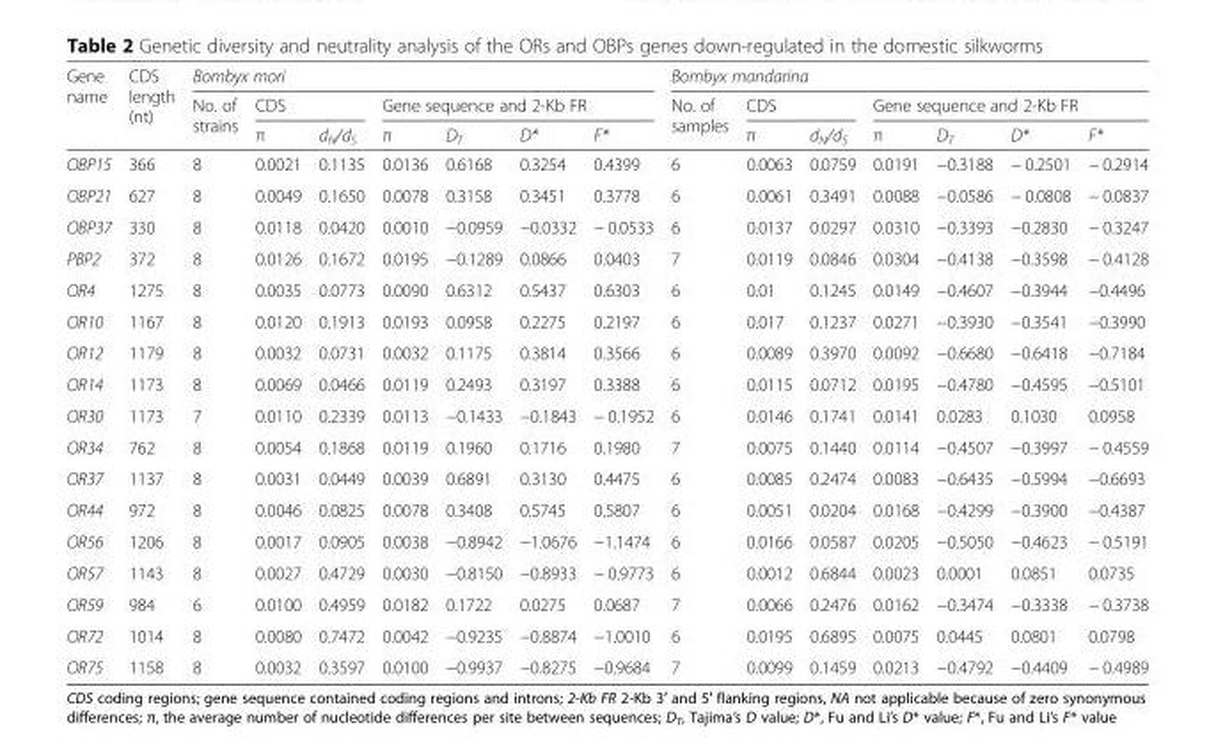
<table><thead><tr><td rowspan="3">Gene name</td><td rowspan="3">CDS length (nt)</td><td colspan="7">Bombyx mori</td><td colspan="7">Bombyx mandarina</td></tr><tr><td rowspan="2">No. of strains</td><td colspan="2">CDS</td><td colspan="4">Gene sequence and 2-Kb FR</td><td rowspan="2">No. of samples</td><td colspan="2">CDS</td><td colspan="4">Gene sequence and 2-Kb FR</td></tr><tr><td>π</td><td>d<sub>N</sub>/d<sub>S</sub></td><td>π</td><td>D<sub>T</sub></td><td>D*</td><td>F*</td><td>π</td><td>d<sub>N</sub>/d<sub>S</sub></td><td>π</td><td>D<sub>T</sub></td><td>D*</td><td>F*</td></tr></thead><tbody><tr><td>OBP15</td><td>366</td><td>8</td><td>0.0021</td><td>0.1135</td><td>0.0136</td><td>0.6168</td><td>0.3254</td><td>0.4399</td><td>6</td><td>0.0063</td><td>0.0759</td><td>0.0191</td><td>−0.3188</td><td>− 0.2501</td><td>− 0.2914</td></tr><tr><td>OBP21</td><td>627</td><td>8</td><td>0.0049</td><td>0.1650</td><td>0.0078</td><td>0.3158</td><td>0.3451</td><td>0.3778</td><td>6</td><td>0.0061</td><td>0.3491</td><td>0.0088</td><td>−0.0586</td><td>− 0.0808</td><td>− 0.0837</td></tr><tr><td>OBP37</td><td>330</td><td>8</td><td>0.0118</td><td>0.0420</td><td>0.0010</td><td>−0.0959</td><td>−0.0332</td><td>− 0.0533</td><td>6</td><td>0.0137</td><td>0.0297</td><td>0.0310</td><td>−0.3393</td><td>−0.2830</td><td>− 0.3247</td></tr><tr><td>PBP2</td><td>372</td><td>8</td><td>0.0126</td><td>0.1672</td><td>0.0195</td><td>−0.1289</td><td>0.0866</td><td>0.0403</td><td>7</td><td>0.0119</td><td>0.0846</td><td>0.0304</td><td>−0.4138</td><td>−0.3598</td><td>− 0.4128</td></tr><tr><td>OR4</td><td>1275</td><td>8</td><td>0.0035</td><td>0.0773</td><td>0.0090</td><td>0.6312</td><td>0.5437</td><td>0.6303</td><td>6</td><td>0.01</td><td>0.1245</td><td>0.0149</td><td>−0.4607</td><td>−0.3944</td><td>−0.4496</td></tr><tr><td>OR10</td><td>1167</td><td>8</td><td>0.0120</td><td>0.1913</td><td>0.0193</td><td>0.0958</td><td>0.2275</td><td>0.2197</td><td>6</td><td>0.017</td><td>0.1237</td><td>0.0271</td><td>−0.3930</td><td>−0.3541</td><td>−0.3990</td></tr><tr><td>OR12</td><td>1179</td><td>8</td><td>0.0032</td><td>0.0731</td><td>0.0032</td><td>0.1175</td><td>0.3814</td><td>0.3566</td><td>6</td><td>0.0089</td><td>0.3970</td><td>0.0092</td><td>−0.6680</td><td>−0.6418</td><td>−0.7184</td></tr><tr><td>OR14</td><td>1173</td><td>8</td><td>0.0069</td><td>0.0466</td><td>0.0119</td><td>0.2493</td><td>0.3197</td><td>0.3388</td><td>6</td><td>0.0115</td><td>0.0712</td><td>0.0195</td><td>−0.4780</td><td>−0.4595</td><td>−0.5101</td></tr><tr><td>OR30</td><td>1173</td><td>7</td><td>0.0110</td><td>0.2339</td><td>0.0113</td><td>−0.1433</td><td>−0.1843</td><td>− 0.1952</td><td>6</td><td>0.0146</td><td>0.1741</td><td>0.0141</td><td>0.0283</td><td>0.1030</td><td>0.0958</td></tr><tr><td>OR34</td><td>762</td><td>8</td><td>0.0054</td><td>0.1868</td><td>0.0119</td><td>0.1960</td><td>0.1716</td><td>0.1980</td><td>7</td><td>0.0075</td><td>0.1440</td><td>0.0114</td><td>−0.4507</td><td>−0.3997</td><td>− 0.4559</td></tr><tr><td>OR37</td><td>1137</td><td>8</td><td>0.0031</td><td>0.0449</td><td>0.0039</td><td>0.6891</td><td>0.3130</td><td>0.4475</td><td>6</td><td>0.0085</td><td>0.2474</td><td>0.0083</td><td>−0.6435</td><td>−0.5994</td><td>−0.6693</td></tr><tr><td>OR44</td><td>972</td><td>8</td><td>0.0046</td><td>0.0825</td><td>0.0078</td><td>0.3408</td><td>0.5745</td><td>0.5807</td><td>6</td><td>0.0051</td><td>0.0204</td><td>0.0168</td><td>−0.4299</td><td>−0.3900</td><td>−0.4387</td></tr><tr><td>OR56</td><td>1206</td><td>8</td><td>0.0017</td><td>0.0905</td><td>0.0038</td><td>−0.8942</td><td>−1.0676</td><td>−1.1474</td><td>6</td><td>0.0166</td><td>0.0587</td><td>0.0205</td><td>−0.5050</td><td>−0.4623</td><td>− 0.5191</td></tr><tr><td>OR57</td><td>1143</td><td>8</td><td>0.0027</td><td>0.4729</td><td>0.0030</td><td>−0.8150</td><td>−0.8933</td><td>− 0.9773</td><td>6</td><td>0.0012</td><td>0.6844</td><td>0.0023</td><td>0.0001</td><td>0.0851</td><td>0.0735</td></tr><tr><td>OR59</td><td>984</td><td>6</td><td>0.0100</td><td>0.4959</td><td>0.0182</td><td>0.1722</td><td>0.0275</td><td>0.0687</td><td>7</td><td>0.0066</td><td>0.2476</td><td>0.0162</td><td>−0.3474</td><td>−0.3338</td><td>− 0.3738</td></tr><tr><td>OR72</td><td>1014</td><td>8</td><td>0.0080</td><td>0.7472</td><td>0.0042</td><td>−0.9235</td><td>−0.8874</td><td>−1.0010</td><td>6</td><td>0.0195</td><td>0.6895</td><td>0.0075</td><td>0.0445</td><td>0.0801</td><td>0.0798</td></tr><tr><td>OR75</td><td>1158</td><td>8</td><td>0.0032</td><td>0.3597</td><td>0.0100</td><td>−0.9937</td><td>−0.8275</td><td>−0.9684</td><td>7</td><td>0.0099</td><td>0.1459</td><td>0.0213</td><td>−0.4792</td><td>−0.4409</td><td>− 0.4989</td></tr></tbody></table>